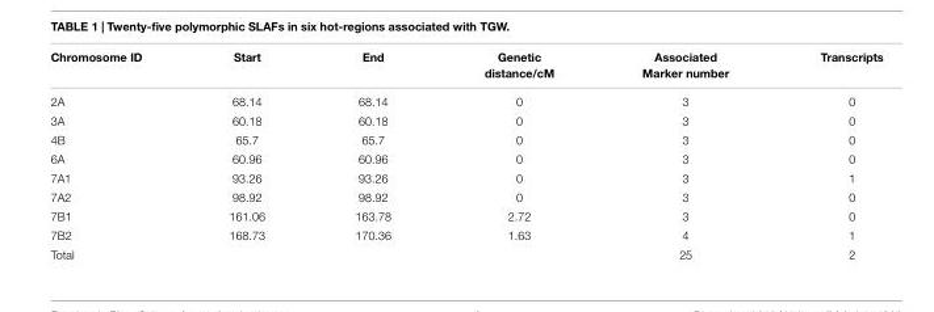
<table><thead><tr><td>Chromosome ID</td><td>Start</td><td>End</td><td>Genetic distance/cM</td><td>Associated Marker number</td><td>Transcripts</td></tr></thead><tbody><tr><td>2A</td><td>68.14</td><td>68.14</td><td>0</td><td>3</td><td>0</td></tr><tr><td>3A</td><td>60.18</td><td>60.18</td><td>0</td><td>3</td><td>0</td></tr><tr><td>4B</td><td>65.7</td><td>65.7</td><td>0</td><td>3</td><td>0</td></tr><tr><td>6A</td><td>60.96</td><td>60.96</td><td>0</td><td>3</td><td>0</td></tr><tr><td>7A1</td><td>93.26</td><td>93.26</td><td>0</td><td>3</td><td>1</td></tr><tr><td>7A2</td><td>98.92</td><td>98.92</td><td>0</td><td>3</td><td>0</td></tr><tr><td>7B1</td><td>161.06</td><td>163.78</td><td>2.72</td><td>3</td><td>0</td></tr><tr><td>7B2</td><td>168.73</td><td>170.36</td><td>1.63</td><td>4</td><td>1</td></tr><tr><td>Total</td><td></td><td></td><td></td><td>25</td><td>2</td></tr></tbody></table>